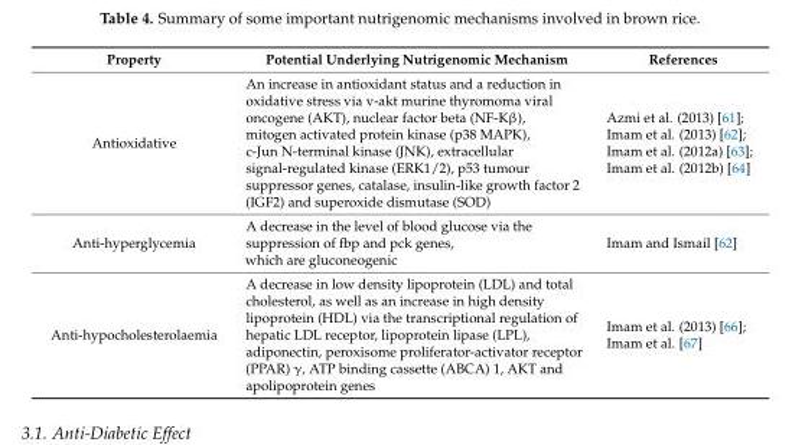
<table><thead><tr><td>Property</td><td>Potential Underlying Nutrigenomic Mechanism</td><td>References</td></tr></thead><tbody><tr><td>Antioxidative</td><td>An increase in antioxidant status and a reduction in oxidative stress via v-akt murine thyromoma viral oncogene (AKT), nuclear factor beta (NF-Kβ), mitogen activated protein kinase (p38 MAPK), c-Jun N-terminal kinase (JNK), extracellular signal-regulated kinase (ERK1/2), p53 tumour suppressor genes, catalase, insulin-like growth factor 2 (IGF2) and superoxide dismutase (SOD)</td><td>Azmi et al. (2013) [61]; Imam et al. (2013) [62]; Imam et al. (2012a) [63]; Imam et al. (2012b) [64]</td></tr><tr><td>Anti-hyperglycemia</td><td>A decrease in the level of blood glucose via the suppression of fbp and pck genes, which are gluconeogenic</td><td>Imam and Ismail [62]</td></tr><tr><td>Anti-hypocholesterolaemia</td><td>A decrease in low density lipoprotein (LDL) and total cholesterol, as well as an increase in high density lipoprotein (HDL) via the transcriptional regulation of hepatic LDL receptor, lipoprotein lipase (LPL), adiponectin, peroxisome proliferator-activator receptor (PPAR) γ, ATP binding cassette (ABCA) 1, AKT and apolipoprotein genes</td><td>Imam et al. (2013) [66]; Imam et al. [67]</td></tr></tbody></table>